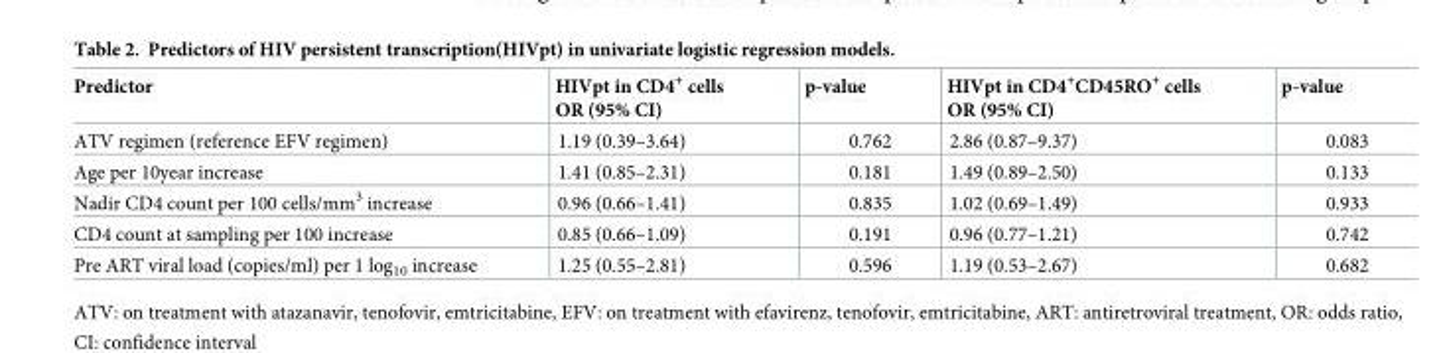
<table><thead><tr><td>Predictor</td><td>HIVpt in CD4<sup>+</sup> cells OR (95% CI)</td><td>p-value</td><td>HIVpt in CD4<sup>+</sup>CD45RO<sup>+</sup> cells OR (95% CI)</td><td>p-value</td></tr></thead><tbody><tr><td>ATV regimen (reference EFV regimen)</td><td>1.19 (0.39–3.64)</td><td>0.762</td><td>2.86 (0.87–9.37)</td><td>0.083</td></tr><tr><td>Age per 10year increase</td><td>1.41 (0.85–2.31)</td><td>0.181</td><td>1.49 (0.89–2.50)</td><td>0.133</td></tr><tr><td>Nadir CD4 count per 100 cells/mm<sup>3</sup> increase</td><td>0.96 (0.66–1.41)</td><td>0.835</td><td>1.02 (0.69–1.49)</td><td>0.933</td></tr><tr><td>CD4 count at sampling per 100 increase</td><td>0.85 (0.66–1.09)</td><td>0.191</td><td>0.96 (0.77–1.21)</td><td>0.742</td></tr><tr><td>Pre ART viral load (copies/ml) per 1 log<sub>10</sub> increase</td><td>1.25 (0.55–2.81)</td><td>0.596</td><td>1.19 (0.53–2.67)</td><td>0.682</td></tr></tbody></table>